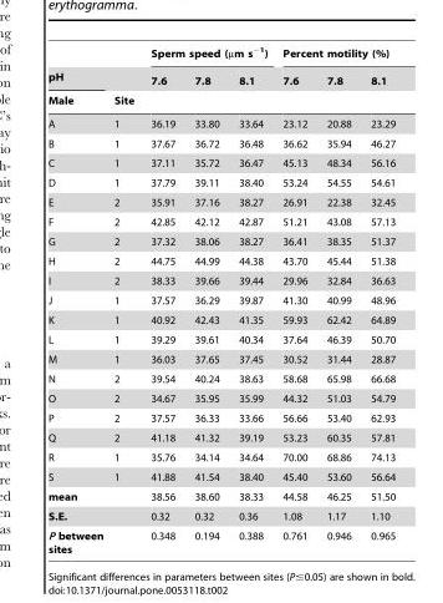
<table><thead><tr><td rowspan="3">pH Male</td><td rowspan="3">Site</td><td colspan="3">Sperm speed (µm s<sup>−1</sup>)</td><td colspan="3">Percent motility (%)</td></tr><tr><td rowspan="2">7.6</td><td rowspan="2">7.8</td><td rowspan="2">8.1</td><td rowspan="2">7.6</td><td rowspan="2">7.8</td><td rowspan="2">8.1</td></tr><tr></tr></thead><tbody><tr><td>A</td><td>1</td><td>36.19</td><td>33.80</td><td>33.64</td><td>23.12</td><td>20.88</td><td>23.29</td></tr><tr><td>B</td><td>1</td><td>37.67</td><td>36.72</td><td>36.48</td><td>36.62</td><td>35.94</td><td>46.27</td></tr><tr><td>C</td><td>1</td><td>37.11</td><td>35.72</td><td>36.47</td><td>45.13</td><td>48.34</td><td>56.16</td></tr><tr><td>D</td><td>1</td><td>37.79</td><td>39.11</td><td>38.40</td><td>53.24</td><td>54.55</td><td>54.61</td></tr><tr><td>E</td><td>2</td><td>35.91</td><td>37.16</td><td>38.27</td><td>26.91</td><td>22.38</td><td>32.45</td></tr><tr><td>F</td><td>2</td><td>42.85</td><td>42.12</td><td>42.87</td><td>51.21</td><td>43.08</td><td>57.13</td></tr><tr><td>G</td><td>2</td><td>37.32</td><td>38.06</td><td>38.27</td><td>36.41</td><td>38.35</td><td>51.37</td></tr><tr><td>H</td><td>2</td><td>44.75</td><td>44.99</td><td>44.38</td><td>43.70</td><td>45.44</td><td>51.38</td></tr><tr><td>I</td><td>2</td><td>38.33</td><td>39.66</td><td>39.44</td><td>29.96</td><td>32.84</td><td>36.63</td></tr><tr><td>J</td><td>1</td><td>37.57</td><td>36.29</td><td>39.87</td><td>41.30</td><td>40.99</td><td>48.96</td></tr><tr><td>K</td><td>1</td><td>40.92</td><td>42.43</td><td>41.35</td><td>59.93</td><td>62.42</td><td>64.89</td></tr><tr><td>L</td><td>1</td><td>39.29</td><td>39.61</td><td>40.34</td><td>37.64</td><td>46.39</td><td>50.70</td></tr><tr><td>M</td><td>1</td><td>36.03</td><td>37.65</td><td>37.45</td><td>30.52</td><td>31.44</td><td>28.87</td></tr><tr><td>N</td><td>2</td><td>39.54</td><td>40.24</td><td>38.63</td><td>58.68</td><td>65.98</td><td>66.68</td></tr><tr><td>O</td><td>2</td><td>34.67</td><td>35.95</td><td>35.99</td><td>44.32</td><td>51.03</td><td>54.79</td></tr><tr><td>P</td><td>2</td><td>37.57</td><td>36.33</td><td>33.66</td><td>56.66</td><td>53.40</td><td>62.93</td></tr><tr><td>Q</td><td>2</td><td>41.18</td><td>41.32</td><td>39.19</td><td>53.23</td><td>60.35</td><td>57.81</td></tr><tr><td>R</td><td>1</td><td>35.76</td><td>34.14</td><td>34.64</td><td>70.00</td><td>68.86</td><td>74.13</td></tr><tr><td>S</td><td>1</td><td>41.88</td><td>41.54</td><td>38.40</td><td>45.40</td><td>53.60</td><td>56.64</td></tr><tr><td>mean</td><td></td><td>38.56</td><td>38.60</td><td>38.33</td><td>44.58</td><td>46.25</td><td>51.50</td></tr><tr><td>S.E.</td><td></td><td>0.32</td><td>0.32</td><td>0.36</td><td>1.08</td><td>1.17</td><td>1.10</td></tr><tr><td>P between sites</td><td></td><td>0.348</td><td>0.194</td><td>0.388</td><td>0.761</td><td>0.946</td><td>0.965</td></tr></tbody></table>